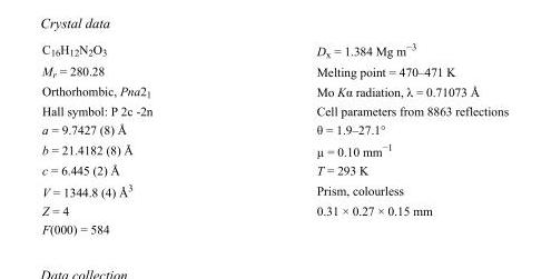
<table><tbody><tr><td>C<sub>16</sub>H<sub>12</sub>N<sub>2</sub>O<sub>3</sub></td><td>D<sub>x</sub> = 1.384 Mg m<sup>−3</sup></td></tr><tr><td>M<sub>r</sub> = 280.28</td><td>Melting point = 470–471 K</td></tr><tr><td>Orthorhombic, Pna2<sub>1</sub></td><td>Mo Kα radiation, λ = 0.71073 Å</td></tr><tr><td>Hall symbol: P 2c -2n</td><td>Cell parameters from 8863 reflections</td></tr><tr><td>a = 9.7427 (8) Å</td><td>θ = 1.9–27.1°</td></tr><tr><td>b = 21.4182 (8) Å</td><td>µ = 0.10 mm<sup>−1</sup></td></tr><tr><td>c = 6.445 (2) Å</td><td>T = 293 K</td></tr><tr><td>V = 1344.8 (4) Å<sup>3</sup></td><td>Prism, colourless</td></tr><tr><td>Z = 4</td><td>0.31 × 0.27 × 0.15 mm</td></tr><tr><td>F(000) = 584</td><td></td></tr></tbody></table>